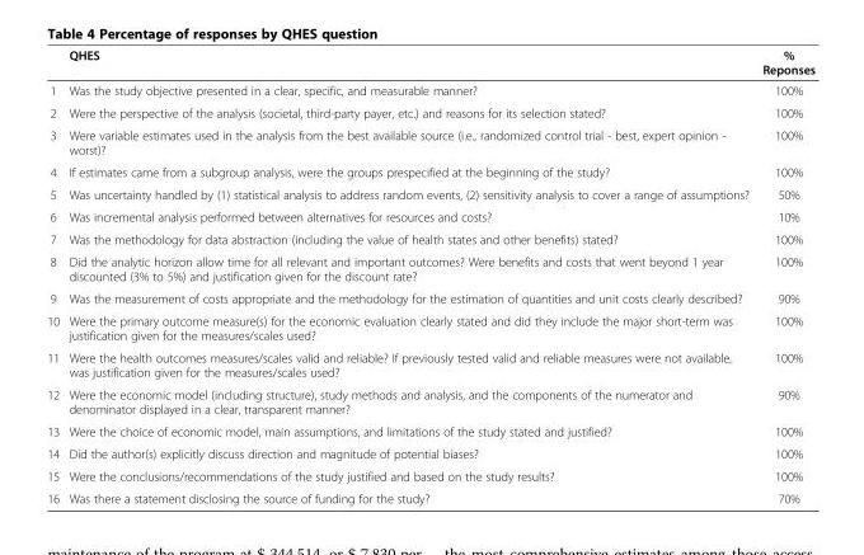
<table><thead><tr><td></td><td>QHES</td><td>% Reponses</td></tr></thead><tbody><tr><td>1</td><td>Was the study objective presented in a clear, specific, and measurable manner?</td><td>100%</td></tr><tr><td>2</td><td>Were the perspective of the analysis (societal, third-party payer, etc.) and reasons for its selection stated?</td><td>100%</td></tr><tr><td>3</td><td>Were variable estimates used in the analysis from the best available source (i.e., randomized control trial - best, expert opinion - worst)?</td><td>100%</td></tr><tr><td>4</td><td>If estimates came from a subgroup analysis, were the groups prespecified at the beginning of the study?</td><td>100%</td></tr><tr><td>5</td><td>Was uncertainty handled by (1) statistical analysis to address random events, (2) sensitivity analysis to cover a range of assumptions?</td><td>50%</td></tr><tr><td>6</td><td>Was incremental analysis performed between alternatives for resources and costs?</td><td>10%</td></tr><tr><td>7</td><td>Was the methodology for data abstraction (including the value of health states and other benefits) stated?</td><td>100%</td></tr><tr><td>8</td><td>Did the analytic horizon allow time for all relevant and important outcomes? Were benefits and costs that went beyond 1 year discounted (3% to 5%) and justification given for the discount rate?</td><td>100%</td></tr><tr><td>9</td><td>Was the measurement of costs appropriate and the methodology for the estimation of quantities and unit costs clearly described?</td><td>90%</td></tr><tr><td>10</td><td>Were the primary outcome measure(s) for the economic evaluation clearly stated and did they include the major short-term was justification given for the measures/scales used?</td><td>100%</td></tr><tr><td>11</td><td>Were the health outcomes measures/scales valid and reliable? If previously tested valid and reliable measures were not available, was justification given for the measures/scales used?</td><td>100%</td></tr><tr><td>12</td><td>Were the economic model (including structure), study methods and analysis, and the components of the numerator and denominator displayed in a clear, transparent manner?</td><td>90%</td></tr><tr><td>13</td><td>Were the choice of economic model, main assumptions, and limitations of the study stated and justified?</td><td>100%</td></tr><tr><td>14</td><td>Did the author(s) explicitly discuss direction and magnitude of potential biases?</td><td>100%</td></tr><tr><td>15</td><td>Were the conclusions/recommendations of the study justified and based on the study results?</td><td>100%</td></tr><tr><td>16</td><td>Was there a statement disclosing the source of funding for the study?</td><td>70%</td></tr></tbody></table>